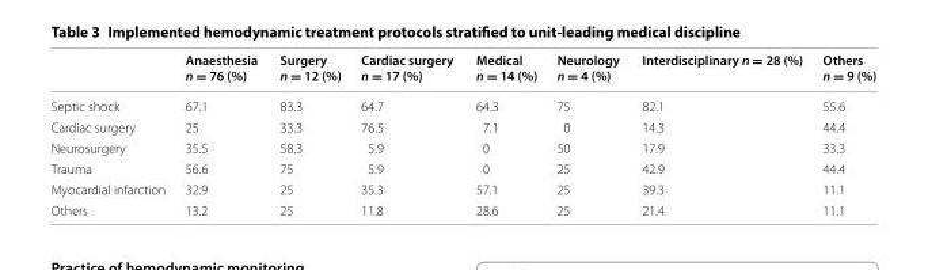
<table><thead><tr><td></td><td>Anaesthesia n = 76 (%)</td><td>Surgery n = 12 (%)</td><td>Cardiac surgery n = 17 (%)</td><td>Medical n = 14 (%)</td><td>Neurology n = 4 (%)</td><td>Interdisciplinary n = 28 (%)</td><td>Others n = 9 (%)</td></tr></thead><tbody><tr><td>Septic shock</td><td>67.1</td><td>83.3</td><td>64.7</td><td>64.3</td><td>75</td><td>82.1</td><td>55.6</td></tr><tr><td>Cardiac surgery</td><td>25</td><td>33.3</td><td>76.5</td><td>7.1</td><td>0</td><td>14.3</td><td>44.4</td></tr><tr><td>Neurosurgery</td><td>35.5</td><td>58.3</td><td>5.9</td><td>0</td><td>50</td><td>17.9</td><td>33.3</td></tr><tr><td>Trauma</td><td>56.6</td><td>75</td><td>5.9</td><td>0</td><td>25</td><td>42.9</td><td>44.4</td></tr><tr><td>Myocardial infarction</td><td>32.9</td><td>25</td><td>35.3</td><td>57.1</td><td>25</td><td>39.3</td><td>11.1</td></tr><tr><td>Others</td><td>13.2</td><td>25</td><td>11.8</td><td>28.6</td><td>25</td><td>21.4</td><td>11.1</td></tr></tbody></table>